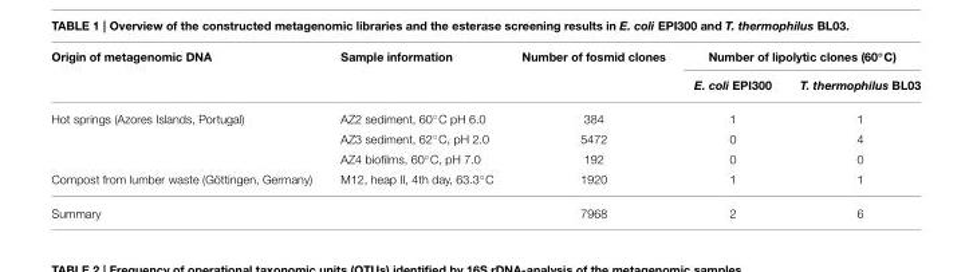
<table><thead><tr><td rowspan="2">Origin of metagenomic DNA</td><td rowspan="2">Sample information</td><td rowspan="2">Number of fosmid clones</td><td colspan="2">Number of lipolytic clones (60◦C)</td></tr><tr><td>E. coli EPI300</td><td>T. thermophilus BL03</td></tr></thead><tbody><tr><td rowspan="3">Hot springs (Azores Islands, Portugal)</td><td>AZ2 sediment, 60◦C pH 6.0</td><td>384</td><td>1</td><td>1</td></tr><tr><td>AZ3 sediment, 62◦C, pH 2.0</td><td>5472</td><td>0</td><td>4</td></tr><tr><td>AZ4 biofilms, 60◦C, pH 7.0</td><td>192</td><td>0</td><td>0</td></tr><tr><td>Compost from lumber waste (Göttingen, Germany)</td><td>M12, heap II, 4th day, 63.3◦C</td><td>1920</td><td>1</td><td>1</td></tr><tr><td>Summary</td><td></td><td>7968</td><td>2</td><td>6</td></tr></tbody></table>